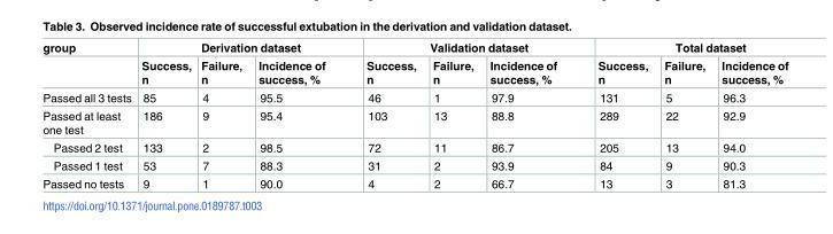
<table><thead><tr><td rowspan="2">group</td><td colspan="3">Derivation dataset</td><td colspan="3">Validation dataset</td><td colspan="3">Total dataset</td></tr><tr><td>Success, n</td><td>Failure, n</td><td>Incidence of success, %</td><td>Success, n</td><td>Failure, n</td><td>Incidence of success, %</td><td>Success, n</td><td>Failure, n</td><td>Incidence of success, %</td></tr></thead><tbody><tr><td>Passed all 3 tests</td><td>85</td><td>4</td><td>95.5</td><td>46</td><td>1</td><td>97.9</td><td>131</td><td>5</td><td>96.3</td></tr><tr><td>Passed at least one test</td><td>186</td><td>9</td><td>95.4</td><td>103</td><td>13</td><td>88.8</td><td>289</td><td>22</td><td>92.9</td></tr><tr><td>Passed 2 test</td><td>133</td><td>2</td><td>98.5</td><td>72</td><td>11</td><td>86.7</td><td>205</td><td>13</td><td>94.0</td></tr><tr><td>Passed 1 test</td><td>53</td><td>7</td><td>88.3</td><td>31</td><td>2</td><td>93.9</td><td>84</td><td>9</td><td>90.3</td></tr><tr><td>Passed no tests</td><td>9</td><td>1</td><td>90.0</td><td>4</td><td>2</td><td>66.7</td><td>13</td><td>3</td><td>81.3</td></tr></tbody></table>